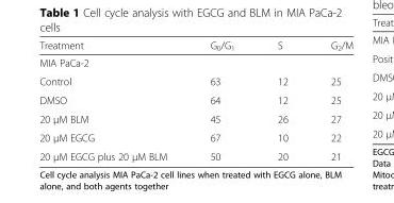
<table><thead><tr><td>Treatment</td><td>G<sub>0</sub>/G<sub>1</sub></td><td>S</td><td>G<sub>2</sub>/M</td></tr></thead><tbody><tr><td colspan="4">MIA PaCa-2</td></tr><tr><td>Control</td><td>63</td><td>12</td><td>25</td></tr><tr><td>DMSO</td><td>64</td><td>12</td><td>25</td></tr><tr><td>20 μM BLM</td><td>45</td><td>26</td><td>27</td></tr><tr><td>20 μM EGCG</td><td>67</td><td>10</td><td>22</td></tr><tr><td>20 μM EGCG plus 20 μM BLM</td><td>50</td><td>20</td><td>21</td></tr></tbody></table>